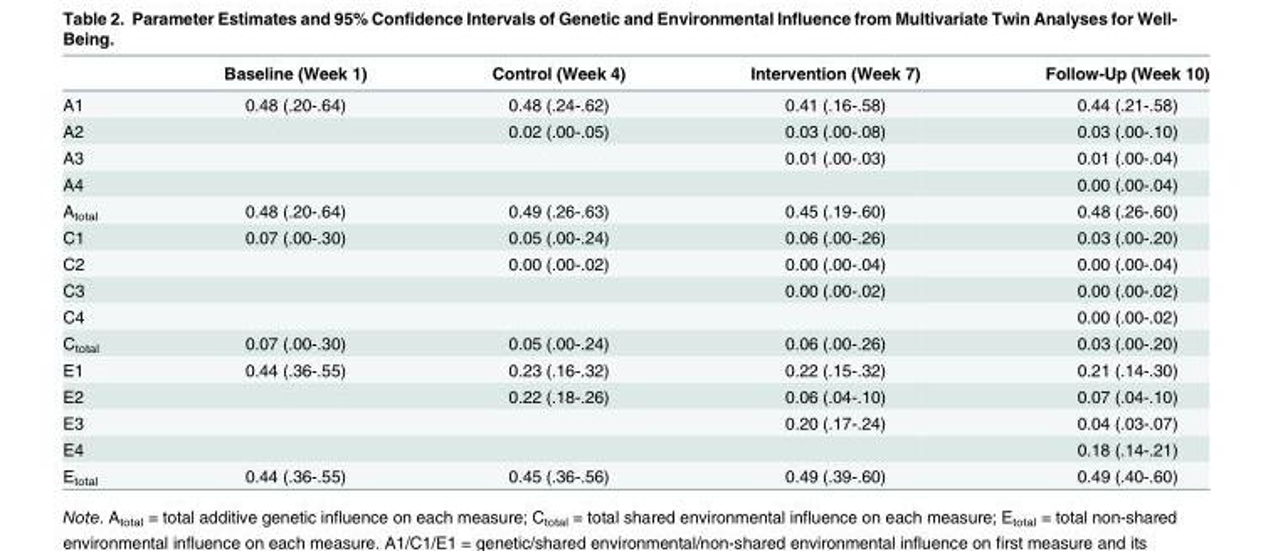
<table><thead><tr><td></td><td>Baseline (Week 1)</td><td>Control (Week 4)</td><td>Intervention (Week 7)</td><td>Follow-Up (Week 10)</td></tr></thead><tbody><tr><td>A1</td><td>0.48 (.20-.64)</td><td>0.48 (.24-.62)</td><td>0.41 (.16-.58)</td><td>0.44 (.21-.58)</td></tr><tr><td>A2</td><td></td><td>0.02 (.00-.05)</td><td>0.03 (.00-.08)</td><td>0.03 (.00-.10)</td></tr><tr><td>A3</td><td></td><td></td><td>0.01 (.00-.03)</td><td>0.01 (.00-.04)</td></tr><tr><td>A4</td><td></td><td></td><td></td><td>0.00 (.00-.04)</td></tr><tr><td>A<sub>total</sub></td><td>0.48 (.20-.64)</td><td>0.49 (.26-.63)</td><td>0.45 (.19-.60)</td><td>0.48 (.26-.60)</td></tr><tr><td>C1</td><td>0.07 (.00-.30)</td><td>0.05 (.00-.24)</td><td>0.06 (.00-.26)</td><td>0.03 (.00-.20)</td></tr><tr><td>C2</td><td></td><td>0.00 (.00-.02)</td><td>0.00 (.00-.04)</td><td>0.00 (.00-.04)</td></tr><tr><td>C3</td><td></td><td></td><td>0.00 (.00-.02)</td><td>0.00 (.00-.02)</td></tr><tr><td>C4</td><td></td><td></td><td></td><td>0.00 (.00-.02)</td></tr><tr><td>C<sub>total</sub></td><td>0.07 (.00-.30)</td><td>0.05 (.00-.24)</td><td>0.06 (.00-.26)</td><td>0.03 (.00-.20)</td></tr><tr><td>E1</td><td>0.44 (.36-.55)</td><td>0.23 (.16-.32)</td><td>0.22 (.15-.32)</td><td>0.21 (.14-.30)</td></tr><tr><td>E2</td><td></td><td>0.22 (.18-.26)</td><td>0.06 (.04-.10)</td><td>0.07 (.04-.10)</td></tr><tr><td>E3</td><td></td><td></td><td>0.20 (.17-.24)</td><td>0.04 (.03-.07)</td></tr><tr><td>E4</td><td></td><td></td><td></td><td>0.18 (.14-.21)</td></tr><tr><td>E<sub>total</sub></td><td>0.44 (.36-.55)</td><td>0.45 (.36-.56)</td><td>0.49 (.39-.60)</td><td>0.49 (.40-.60)</td></tr></tbody></table>